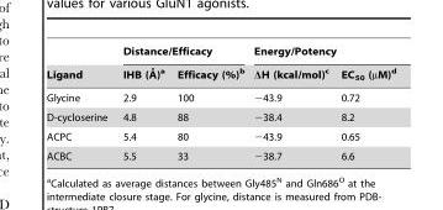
<table><thead><tr><td rowspan="2">Ligand</td><td colspan="2">Distance/Efficacy</td><td colspan="2">Energy/Potency</td></tr><tr><td>IHB (A˚ )a</td><td>Efficacy (%)<sup>b</sup></td><td>ΔH (kcal/mol)<sup>c</sup></td><td>EC<sub>50</sub> (µM)<sup>d</sup></td></tr></thead><tbody><tr><td>Glycine</td><td>2.9</td><td>100</td><td>−43.9</td><td>0.72</td></tr><tr><td>D-cycloserine</td><td>4.8</td><td>88</td><td>−38.4</td><td>8.2</td></tr><tr><td>ACPC</td><td>5.4</td><td>80</td><td>−43.9</td><td>0.65</td></tr><tr><td>ACBC</td><td>5.5</td><td>33</td><td>−38.7</td><td>6.6</td></tr></tbody></table>